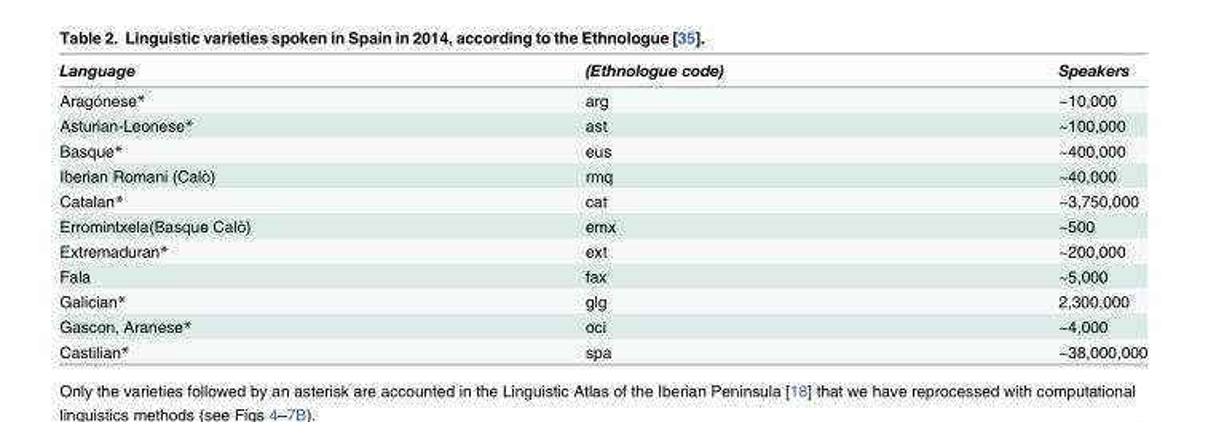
<table><thead><tr><td>Language</td><td>(Ethnologue code)</td><td>Speakers</td></tr></thead><tbody><tr><td>Aragónese*</td><td>arg</td><td>~10,000</td></tr><tr><td>Asturian-Leonese*</td><td>ast</td><td>~100,000</td></tr><tr><td>Basque*</td><td>eus</td><td>~400,000</td></tr><tr><td>Iberian Romani (Calò)</td><td>rmq</td><td>~40,000</td></tr><tr><td>Catalan*</td><td>cat</td><td>~3,750,000</td></tr><tr><td>Erromintxela(Basque Calò)</td><td>emx</td><td>~500</td></tr><tr><td>Extremaduran*</td><td>ext</td><td>~200,000</td></tr><tr><td>Fala</td><td>fax</td><td>~5,000</td></tr><tr><td>Galician*</td><td>glg</td><td>2,300,000</td></tr><tr><td>Gascon, Aranese*</td><td>oci</td><td>~4,000</td></tr><tr><td>Castilian*</td><td>spa</td><td>~38,000,000</td></tr></tbody></table>